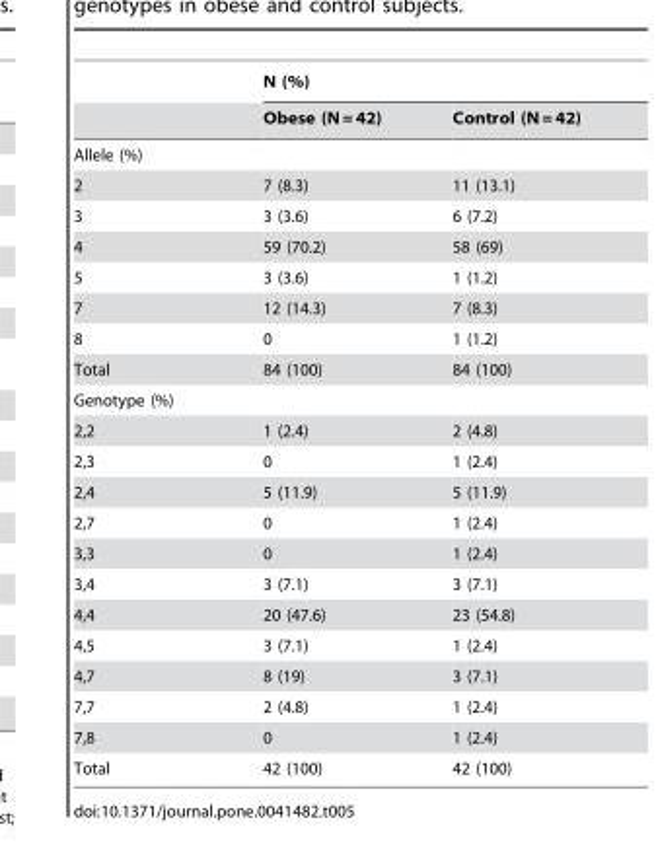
<table><thead><tr><td rowspan="2"></td><td colspan="2">N (%)</td></tr><tr><td>Obese (N = 42)</td><td>Control (N = 42)</td></tr></thead><tbody><tr><td colspan="3">Allele (%)</td></tr><tr><td>2</td><td>7 (8.3)</td><td>11 (13.1)</td></tr><tr><td>3</td><td>3 (3.6)</td><td>6 (7.2)</td></tr><tr><td>4</td><td>59 (70.2)</td><td>58 (69)</td></tr><tr><td>5</td><td>3 (3.6)</td><td>1 (1.2)</td></tr><tr><td>7</td><td>12 (14.3)</td><td>7 (8.3)</td></tr><tr><td>8</td><td>0</td><td>1 (1.2)</td></tr><tr><td>Total</td><td>84 (100)</td><td>84 (100)</td></tr><tr><td colspan="3">Genotype (%)</td></tr><tr><td>2,2</td><td>1 (2.4)</td><td>2 (4.8)</td></tr><tr><td>2,3</td><td>0</td><td>1 (2.4)</td></tr><tr><td>2,4</td><td>5 (11.9)</td><td>5 (11.9)</td></tr><tr><td>2,7</td><td>0</td><td>1 (2.4)</td></tr><tr><td>3,3</td><td>0</td><td>1 (2.4)</td></tr><tr><td>3,4</td><td>3 (7.1)</td><td>3 (7.1)</td></tr><tr><td>4,4</td><td>20 (47.6)</td><td>23 (54.8)</td></tr><tr><td>4,5</td><td>3 (7.1)</td><td>1 (2.4)</td></tr><tr><td>4,7</td><td>8 (19)</td><td>3 (7.1)</td></tr><tr><td>7,7</td><td>2 (4.8)</td><td>1 (2.4)</td></tr><tr><td>7,8</td><td>0</td><td>1 (2.4)</td></tr><tr><td>Total</td><td>42 (100)</td><td>42 (100)</td></tr></tbody></table>